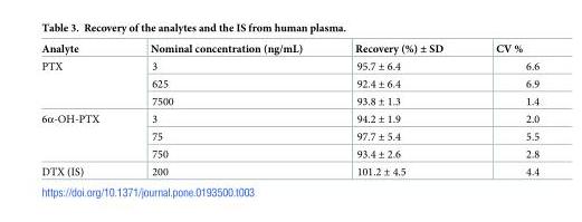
<table><thead><tr><td>Analyte</td><td>Nominal concentration (ng/mL)</td><td>Recovery (%) ± SD</td><td>CV %</td></tr></thead><tbody><tr><td rowspan="3">PTX</td><td>3</td><td>95.7 ± 6.4</td><td>6.6</td></tr><tr><td>625</td><td>92.4 ± 6.4</td><td>6.9</td></tr><tr><td>7500</td><td>93.8 ± 1.3</td><td>1.4</td></tr><tr><td rowspan="3">6α-OH-PTX</td><td>3</td><td>94.2 ± 1.9</td><td>2.0</td></tr><tr><td>75</td><td>97.7 ± 5.4</td><td>5.5</td></tr><tr><td>750</td><td>93.4 ± 2.6</td><td>2.8</td></tr><tr><td>DTX (IS)</td><td>200</td><td>101.2 ± 4.5</td><td>4.4</td></tr></tbody></table>